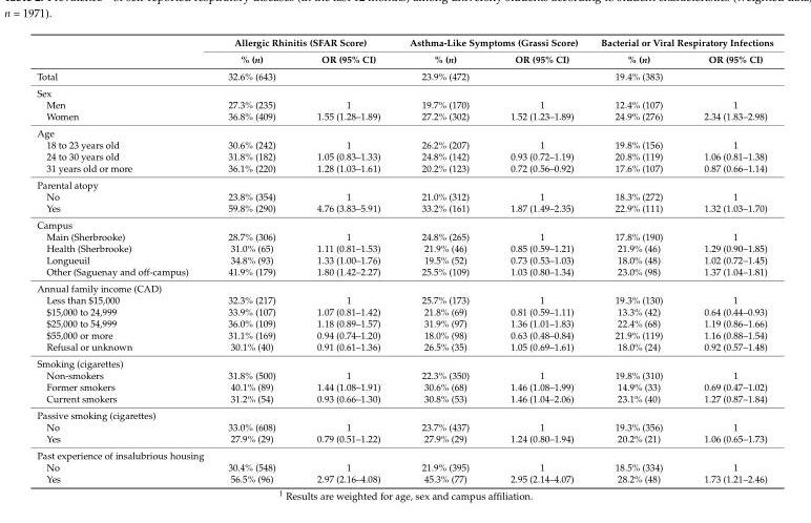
<table><thead><tr><td rowspan="2"></td><td colspan="2">Allergic Rhinitis (SFAR Score)</td><td colspan="2">Asthma-Like Symptoms (Grassi Score)</td><td colspan="2">Bacterial or Viral Respiratory Infections</td></tr><tr><td>% (n)</td><td>OR (95% CI)</td><td>% (n)</td><td>OR (95% CI)</td><td>% (n)</td><td>OR (95% CI)</td></tr></thead><tbody><tr><td>Total</td><td>32.6% (643)</td><td></td><td>23.9% (472)</td><td></td><td>19.4% (383)</td><td></td></tr><tr><td colspan="7">Sex</td></tr><tr><td>Men</td><td>27.3% (235)</td><td>1</td><td>19.7% (170)</td><td>1</td><td>12.4% (107)</td><td>1</td></tr><tr><td>Women</td><td>36.8% (409)</td><td>1.55 (1.28–1.89)</td><td>27.2% (302)</td><td>1.52 (1.23–1.89)</td><td>24.9% (276)</td><td>2.34 (1.83–2.98)</td></tr><tr><td colspan="7">Age</td></tr><tr><td>18 to 23 years old</td><td>30.6% (242)</td><td>1</td><td>26.2% (207)</td><td>1</td><td>19.8% (156)</td><td>1</td></tr><tr><td>24 to 30 years old</td><td>31.8% (182)</td><td>1.05 (0.83–1.33)</td><td>24.8% (142)</td><td>0.93 (0.72–1.19)</td><td>20.8% (119)</td><td>1.06 (0.81–1.38)</td></tr><tr><td>31 years old or more</td><td>36.1% (220)</td><td>1.28 (1.03–1.61)</td><td>20.2% (123)</td><td>0.72 (0.56–0.92)</td><td>17.6% (107)</td><td>0.87 (0.66–1.14)</td></tr><tr><td colspan="7">Parental atopy</td></tr><tr><td>No</td><td>23.8% (354)</td><td>1</td><td>21.0% (312)</td><td>1</td><td>18.3% (272)</td><td>1</td></tr><tr><td>Yes</td><td>59.8% (290)</td><td>4.76 (3.83–5.91)</td><td>33.2% (161)</td><td>1.87 (1.49–2.35)</td><td>22.9% (111)</td><td>1.32 (1.03–1.70)</td></tr><tr><td colspan="7">Campus</td></tr><tr><td>Main (Sherbrooke)</td><td>28.7% (306)</td><td>1</td><td>24.8% (265)</td><td>1</td><td>17.8% (190)</td><td>1</td></tr><tr><td>Health (Sherbrooke)</td><td>31.0% (65)</td><td>1.11 (0.81–1.53)</td><td>21.9% (46)</td><td>0.85 (0.59–1.21)</td><td>21.9% (46)</td><td>1.29 (0.90–1.85)</td></tr><tr><td>Longueuil</td><td>34.8% (93)</td><td>1.33 (1.00–1.76)</td><td>19.5% (52)</td><td>0.73 (0.53–1.03)</td><td>18.0% (48)</td><td>1.02 (0.72–1.45)</td></tr><tr><td>Other (Saguenay and off-campus)</td><td>41.9% (179)</td><td>1.80 (1.42–2.27)</td><td>25.5% (109)</td><td>1.03 (0.80–1.34)</td><td>23.0% (98)</td><td>1.37 (1.04–1.81)</td></tr><tr><td colspan="7">Annual family income (CAD)</td></tr><tr><td>Less than $15,000</td><td>32.3% (217)</td><td>1</td><td>25.7% (173)</td><td>1</td><td>19.3% (130)</td><td>1</td></tr><tr><td>$15,000 to 24,999</td><td>33.9% (107)</td><td>1.07 (0.81–1.42)</td><td>21.8% (69)</td><td>0.81 (0.59–1.11)</td><td>13.3% (42)</td><td>0.64 (0.44–0.93)</td></tr><tr><td>$25,000 to 54,999</td><td>36.0% (109)</td><td>1.18 (0.89–1.57)</td><td>31.9% (97)</td><td>1.36 (1.01–1.83)</td><td>22.4% (68)</td><td>1.19 (0.86–1.66)</td></tr><tr><td>$55,000 or more</td><td>31.1% (169)</td><td>0.94 (0.74–1.20)</td><td>18.0% (98)</td><td>0.63 (0.48–0.84)</td><td>21.9% (119)</td><td>1.16 (0.88–1.54)</td></tr><tr><td>Refusal or unknown</td><td>30.1% (40)</td><td>0.91 (0.61–1.36)</td><td>26.5% (35)</td><td>1.05 (0.69–1.61)</td><td>18.0% (24)</td><td>0.92 (0.57–1.48)</td></tr><tr><td colspan="7">Smoking (cigarettes)</td></tr><tr><td>Non-smokers</td><td>31.8% (500)</td><td>1</td><td>22.3% (350)</td><td>1</td><td>19.8% (310)</td><td>1</td></tr><tr><td>Former smokers</td><td>40.1% (89)</td><td>1.44 (1.08–1.91)</td><td>30.6% (68)</td><td>1.46 (1.08–1.99)</td><td>14.9% (33)</td><td>0.69 (0.47–1.02)</td></tr><tr><td>Current smokers</td><td>31.2% (54)</td><td>0.93 (0.66–1.30)</td><td>30.8% (53)</td><td>1.46 (1.04–2.06)</td><td>23.1% (40)</td><td>1.27 (0.87–1.84)</td></tr><tr><td colspan="7">Passive smoking (cigarettes)</td></tr><tr><td>No</td><td>33.0% (608)</td><td>1</td><td>23.7% (437)</td><td>1</td><td>19.3% (356)</td><td>1</td></tr><tr><td>Yes</td><td>27.9% (29)</td><td>0.79 (0.51–1.22)</td><td>27.9% (29)</td><td>1.24 (0.80–1.94)</td><td>20.2% (21)</td><td>1.06 (0.65–1.73)</td></tr><tr><td colspan="7">Past experience of insalubrious housing</td></tr><tr><td>No</td><td>30.4% (548)</td><td>1</td><td>21.9% (395)</td><td>1</td><td>18.5% (334)</td><td>1</td></tr><tr><td>Yes</td><td>56.5% (96)</td><td>2.97 (2.16–4.08)</td><td>45.3% (77)</td><td>2.95 (2.14–4.07)</td><td>28.2% (48)</td><td>1.73 (1.21–2.46)</td></tr></tbody></table>